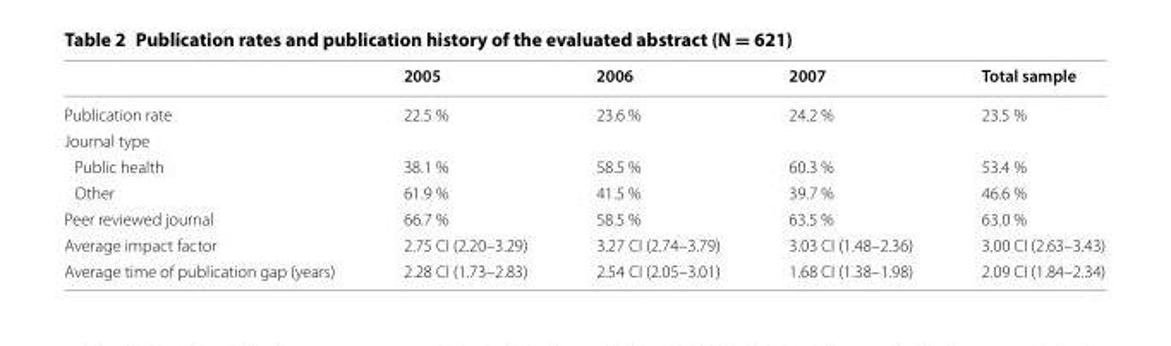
<table><thead><tr><td></td><td>2005</td><td>2006</td><td>2007</td><td>Total sample</td></tr></thead><tbody><tr><td>Publication rate</td><td>22.5 %</td><td>23.6 %</td><td>24.2 %</td><td>23.5 %</td></tr><tr><td colspan="5">Journal type</td></tr><tr><td>Public health</td><td>38.1 %</td><td>58.5 %</td><td>60.3 %</td><td>53.4 %</td></tr><tr><td>Other</td><td>61.9 %</td><td>41.5 %</td><td>39.7 %</td><td>46.6 %</td></tr><tr><td>Peer reviewed journal</td><td>66.7 %</td><td>58.5 %</td><td>63.5 %</td><td>63.0 %</td></tr><tr><td>Average impact factor</td><td>2.75 CI (2.20–3.29)</td><td>3.27 CI (2.74–3.79)</td><td>3.03 CI (1.48–2.36)</td><td>3.00 CI (2.63–3.43)</td></tr><tr><td>Average time of publication gap (years)</td><td>2.28 CI (1.73–2.83)</td><td>2.54 CI (2.05–3.01)</td><td>1.68 CI (1.38–1.98)</td><td>2.09 CI (1.84–2.34)</td></tr></tbody></table>